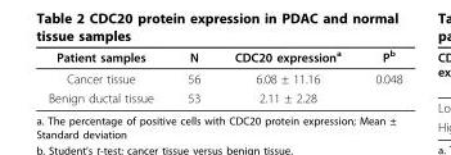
<table><thead><tr><td>Patient samples</td><td>N</td><td>CDC20 expression<sup>a</sup></td><td>P<sup>b</sup></td></tr></thead><tbody><tr><td>Cancer tissue</td><td>56</td><td>6.08 ± 11.16</td><td>0.048</td></tr><tr><td>Benign ductal tissue</td><td>53</td><td>2.11 ± 2.28</td><td></td></tr></tbody></table>